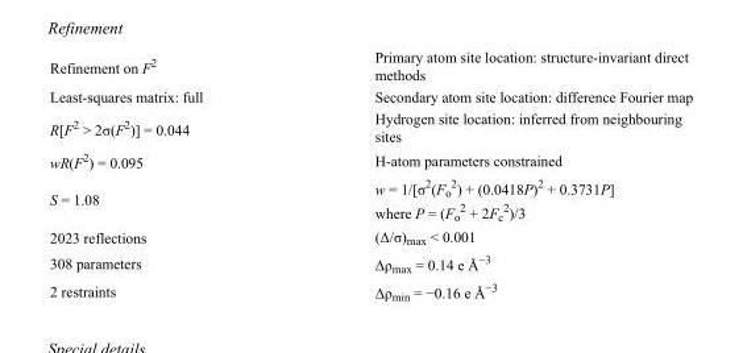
<table><tbody><tr><td>Refinement on F<sup>2</sup></td><td>Primary atom site location: structure-invariant direct methods</td></tr><tr><td>Least-squares matrix: full</td><td>Secondary atom site location: difference Fourier map</td></tr><tr><td>R[F<sup>2</sup> &gt; 2σ(F<sup>2</sup>)] = 0.044</td><td>Hydrogen site location: inferred from neighbouring sites</td></tr><tr><td>wR(F<sup>2</sup>) = 0.095</td><td>H-atom parameters constrained</td></tr><tr><td>S = 1.08</td><td>w = 1/[σ<sup>2</sup>(F<sub>o</sub> <sup>2</sup>) + (0.0418P)<sup>2</sup> + 0.3731P] where P = (F<sub>o</sub> <sup>2</sup> + 2F<sub>c</sub> <sup>2</sup>)/3</td></tr><tr><td>2023 reflections</td><td>(Δ/σ)<sub>max</sub> &lt; 0.001</td></tr><tr><td>308 parameters</td><td>Δρ<sub>max</sub> = 0.14 e Å<sup>−3</sup></td></tr><tr><td>2 restraints</td><td>Δρ<sub>min</sub> = −0.16 e Å<sup>−3</sup></td></tr></tbody></table>